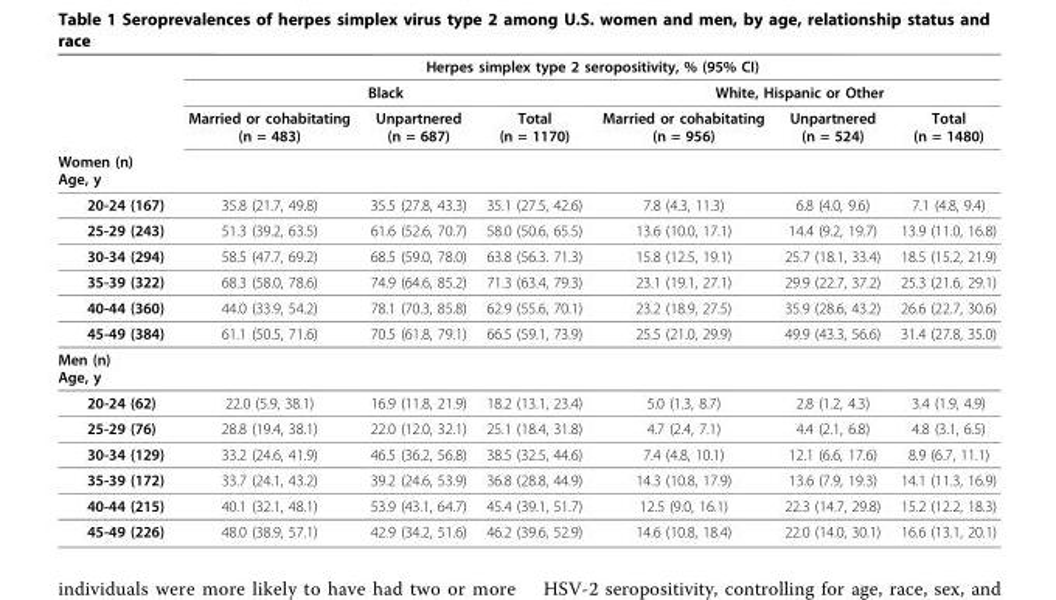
<table><thead><tr><td rowspan="4">Women (n) Age, y</td><td colspan="6">Herpes simplex type 2 seropositivity, % (95% CI)</td></tr><tr><td colspan="3">Black</td><td colspan="3">White, Hispanic or Other</td></tr><tr><td rowspan="2">Married or cohabitating (n = 483)</td><td rowspan="2">Unpartnered (n = 687)</td><td rowspan="2">Total (n = 1170)</td><td rowspan="2">Married or cohabitating (n = 956)</td><td rowspan="2">Unpartnered (n = 524)</td><td rowspan="2">Total (n = 1480)</td></tr><tr></tr></thead><tbody><tr><td>20-24 (167)</td><td>35.8 (21.7, 49.8)</td><td>35.5 (27.8, 43.3)</td><td>35.1 (27.5, 42.6)</td><td>7.8 (4.3, 11.3)</td><td>6.8 (4.0, 9.6)</td><td>7.1 (4.8, 9.4)</td></tr><tr><td>25-29 (243)</td><td>51.3 (39.2, 63.5)</td><td>61.6 (52.6, 70.7)</td><td>58.0 (50.6, 65.5)</td><td>13.6 (10.0, 17.1)</td><td>14.4 (9.2, 19.7)</td><td>13.9 (11.0, 16.8)</td></tr><tr><td>30-34 (294)</td><td>58.5 (47.7, 69.2)</td><td>68.5 (59.0, 78.0)</td><td>63.8 (56.3. 71.3)</td><td>15.8 (12.5, 19.1)</td><td>25.7 (18.1, 33.4)</td><td>18.5 (15.2, 21.9)</td></tr><tr><td>35-39 (322)</td><td>68.3 (58.0, 78.6)</td><td>74.9 (64.6, 85.2)</td><td>71.3 (63.4, 79.3)</td><td>23.1 (19.1, 27.1)</td><td>29.9 (22.7, 37.2)</td><td>25.3 (21.6, 29.1)</td></tr><tr><td>40-44 (360)</td><td>44.0 (33.9, 54.2)</td><td>78.1 (70.3, 85.8)</td><td>62.9 (55.6, 70.1)</td><td>23.2 (18.9, 27.5)</td><td>35.9 (28.6, 43.2)</td><td>26.6 (22.7, 30.6)</td></tr><tr><td>45-49 (384)</td><td>61.1 (50.5, 71.6)</td><td>70.5 (61.8, 79.1)</td><td>66.5 (59.1, 73.9)</td><td>25.5 (21.0, 29.9)</td><td>49.9 (43.3, 56.6)</td><td>31.4 (27.8, 35.0)</td></tr><tr><td colspan="7">Men (n) Age, y</td></tr><tr><td>20-24 (62)</td><td>22.0 (5.9, 38.1)</td><td>16.9 (11.8, 21.9)</td><td>18.2 (13.1, 23.4)</td><td>5.0 (1.3, 8.7)</td><td>2.8 (1.2, 4.3)</td><td>3.4 (1.9, 4.9)</td></tr><tr><td>25-29 (76)</td><td>28.8 (19.4, 38.1)</td><td>22.0 (12.0, 32.1)</td><td>25.1 (18.4, 31.8)</td><td>4.7 (2.4, 7.1)</td><td>4.4 (2.1, 6.8)</td><td>4.8 (3.1, 6.5)</td></tr><tr><td>30-34 (129)</td><td>33.2 (24.6, 41.9)</td><td>46.5 (36.2, 56.8)</td><td>38.5 (32.5, 44.6)</td><td>7.4 (4.8, 10.1)</td><td>12.1 (6.6, 17.6)</td><td>8.9 (6.7, 11.1)</td></tr><tr><td>35-39 (172)</td><td>33.7 (24.1, 43.2)</td><td>39.2 (24.6, 53.9)</td><td>36.8 (28.8, 44.9)</td><td>14.3 (10.8, 17.9)</td><td>13.6 (7.9, 19.3)</td><td>14.1 (11.3, 16.9)</td></tr><tr><td>40-44 (215)</td><td>40.1 (32.1, 48.1)</td><td>53.9 (43.1, 64.7)</td><td>45.4 (39.1, 51.7)</td><td>12.5 (9.0, 16.1)</td><td>22.3 (14.7, 29.8)</td><td>15.2 (12.2, 18.3)</td></tr><tr><td>45-49 (226)</td><td>48.0 (38.9, 57.1)</td><td>42.9 (34.2, 51.6)</td><td>46.2 (39.6, 52.9)</td><td>14.6 (10.8, 18.4)</td><td>22.0 (14.0, 30.1)</td><td>16.6 (13.1, 20.1)</td></tr></tbody></table>